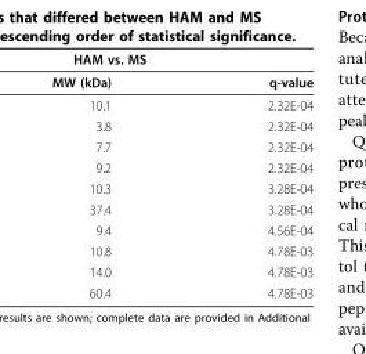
<table><thead><tr><td colspan="2">HAM vs. MS</td></tr><tr><td>MW (kDa)</td><td>q-value</td></tr></thead><tbody><tr><td>10.1</td><td>2.32E-04</td></tr><tr><td>3.8</td><td>2.32E-04</td></tr><tr><td>7.7</td><td>2.32E-04</td></tr><tr><td>9.2</td><td>2.32E-04</td></tr><tr><td>10.3</td><td>3.28E-04</td></tr><tr><td>37.4</td><td>3.28E-04</td></tr><tr><td>9.4</td><td>4.56E-04</td></tr><tr><td>10.8</td><td>4.78E-03</td></tr><tr><td>14.0</td><td>4.78E-03</td></tr><tr><td>60.4</td><td>4.78E-03</td></tr></tbody></table>